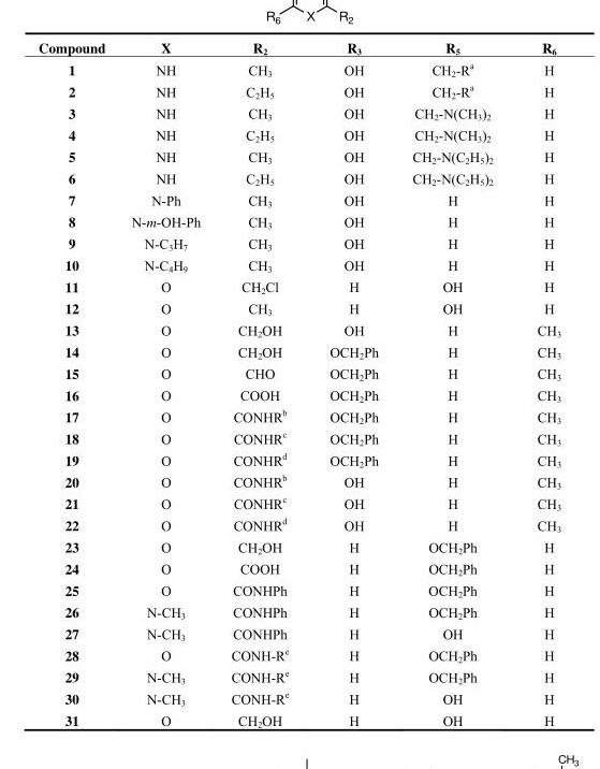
<table><thead><tr><td>Compound</td><td>X</td><td>R<sub>2</sub></td><td>R<sub>3</sub></td><td>R<sub>5</sub></td><td>R<sub>6</sub></td></tr></thead><tbody><tr><td>1</td><td>NH</td><td>CH<sub>3</sub></td><td>OH</td><td>CH<sub>2</sub>-R<sup>a</sup></td><td>H</td></tr><tr><td>2</td><td>NH</td><td>C<sub>2</sub>H<sub>5</sub></td><td>OH</td><td>CH<sub>2</sub>-R<sup>a</sup></td><td>H</td></tr><tr><td>3</td><td>NH</td><td>CH<sub>3</sub></td><td>OH</td><td>CH<sub>2</sub>-N(CH<sub>3</sub>)<sub>2</sub></td><td>H</td></tr><tr><td>4</td><td>NH</td><td>C<sub>2</sub>H<sub>5</sub></td><td>OH</td><td>CH<sub>2</sub>-N(CH<sub>3</sub>)<sub>2</sub></td><td>H</td></tr><tr><td>5</td><td>NH</td><td>CH<sub>3</sub></td><td>OH</td><td>CH<sub>2</sub>-N(C<sub>2</sub>H<sub>5</sub>)<sub>2</sub></td><td>H</td></tr><tr><td>6</td><td>NH</td><td>C<sub>2</sub>H<sub>5</sub></td><td>OH</td><td>CH<sub>2</sub>-N(C<sub>2</sub>H<sub>5</sub>)<sub>2</sub></td><td>H</td></tr><tr><td>7</td><td>N-Ph</td><td>CH<sub>3</sub></td><td>OH</td><td>H</td><td>H</td></tr><tr><td>8</td><td>N-m-OH-Ph</td><td>CH<sub>3</sub></td><td>OH</td><td>H</td><td>H</td></tr><tr><td>9</td><td>N-C<sub>3</sub>H<sub>7</sub></td><td>CH<sub>3</sub></td><td>OH</td><td>H</td><td>H</td></tr><tr><td>10</td><td>N-C<sub>4</sub>H<sub>9</sub></td><td>CH<sub>3</sub></td><td>OH</td><td>H</td><td>H</td></tr><tr><td>11</td><td>O</td><td>CH<sub>2</sub>Cl</td><td>H</td><td>OH</td><td>H</td></tr><tr><td>12</td><td>O</td><td>CH<sub>3</sub></td><td>H</td><td>OH</td><td>H</td></tr><tr><td>13</td><td>O</td><td>CH<sub>2</sub>OH</td><td>OH</td><td>H</td><td>CH<sub>3</sub></td></tr><tr><td>14</td><td>O</td><td>CH<sub>2</sub>OH</td><td>OCH<sub>2</sub>Ph</td><td>H</td><td>CH<sub>3</sub></td></tr><tr><td>15</td><td>O</td><td>CHO</td><td>OCH<sub>2</sub>Ph</td><td>H</td><td>CH<sub>3</sub></td></tr><tr><td>16</td><td>O</td><td>COOH</td><td>OCH<sub>2</sub>Ph</td><td>H</td><td>CH<sub>3</sub></td></tr><tr><td>17</td><td>O</td><td>CONHR<sup>b</sup></td><td>OCH<sub>2</sub>Ph</td><td>H</td><td>CH<sub>3</sub></td></tr><tr><td>18</td><td>O</td><td>CONHR<sup>c</sup></td><td>OCH<sub>2</sub>Ph</td><td>H</td><td>CH<sub>3</sub></td></tr><tr><td>19</td><td>O</td><td>CONHR<sup>d</sup></td><td>OCH<sub>2</sub>Ph</td><td>H</td><td>CH<sub>3</sub></td></tr><tr><td>20</td><td>O</td><td>CONHR<sup>b</sup></td><td>OH</td><td>H</td><td>CH<sub>3</sub></td></tr><tr><td>21</td><td>O</td><td>CONHR<sup>c</sup></td><td>OH</td><td>H</td><td>CH<sub>3</sub></td></tr><tr><td>22</td><td>O</td><td>CONHR<sup>d</sup></td><td>OH</td><td>H</td><td>CH<sub>3</sub></td></tr><tr><td>23</td><td>O</td><td>CH<sub>2</sub>OH</td><td>H</td><td>OCH<sub>2</sub>Ph</td><td>H</td></tr><tr><td>24</td><td>O</td><td>COOH</td><td>H</td><td>OCH<sub>2</sub>Ph</td><td>H</td></tr><tr><td>25</td><td>O</td><td>CONHPh</td><td>H</td><td>OCH<sub>2</sub>Ph</td><td>H</td></tr><tr><td>26</td><td>N-CH<sub>3</sub></td><td>CONHPh</td><td>H</td><td>OCH<sub>2</sub>Ph</td><td>H</td></tr><tr><td>27</td><td>N-CH<sub>3</sub></td><td>CONHPh</td><td>H</td><td>OH</td><td>H</td></tr><tr><td>28</td><td>O</td><td>CONH-R<sup>e</sup></td><td>H</td><td>OCH<sub>2</sub>Ph</td><td>H</td></tr><tr><td>29</td><td>N-CH<sub>3</sub></td><td>CONH-R<sup>e</sup></td><td>H</td><td>OCH<sub>2</sub>Ph</td><td>H</td></tr><tr><td>30</td><td>N-CH<sub>3</sub></td><td>CONH-R<sup>e</sup></td><td>H</td><td>OH</td><td>H</td></tr><tr><td>31</td><td>O</td><td>CH<sub>2</sub>OH</td><td>H</td><td>OH</td><td>H</td></tr></tbody></table>